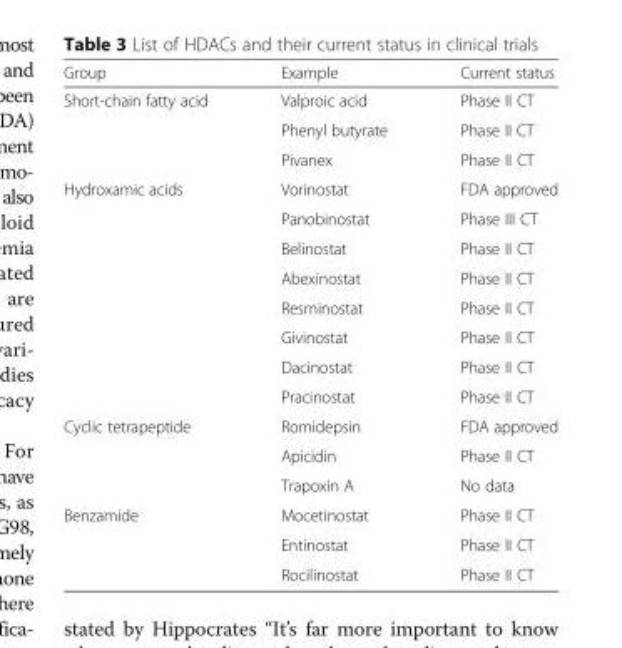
<table><thead><tr><td>Group</td><td>Example</td><td>Current status</td></tr></thead><tbody><tr><td rowspan="3">Short-chain fatty acid</td><td>Valproic acid</td><td>Phase II CT</td></tr><tr><td>Phenyl butyrate</td><td>Phase II CT</td></tr><tr><td>Pivanex</td><td>Phase II CT</td></tr><tr><td rowspan="8">Hydroxamic acids</td><td>Vorinostat</td><td>FDA approved</td></tr><tr><td>Panobinostat</td><td>Phase III CT</td></tr><tr><td>Belinostat</td><td>Phase II CT</td></tr><tr><td>Abexinostat</td><td>Phase II CT</td></tr><tr><td>Resminostat</td><td>Phase II CT</td></tr><tr><td>Givinostat</td><td>Phase II CT</td></tr><tr><td>Dacinostat</td><td>Phase II CT</td></tr><tr><td>Pracinostat</td><td>Phase II CT</td></tr><tr><td rowspan="3">Cyclic tetrapeptide</td><td>Romidepsin</td><td>FDA approved</td></tr><tr><td>Apicidin</td><td>Phase II CT</td></tr><tr><td>Trapoxin A</td><td>No data</td></tr><tr><td rowspan="3">Benzamide</td><td>Mocetinostat</td><td>Phase II CT</td></tr><tr><td>Entinostat</td><td>Phase II CT</td></tr><tr><td>Rocilinostat</td><td>Phase II CT</td></tr></tbody></table>